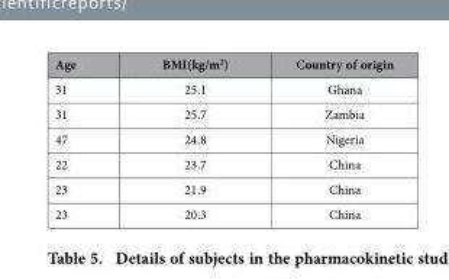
<table><thead><tr><td>Age</td><td>BMI(kg/m<sup>2</sup>)</td><td>Country of origin</td></tr></thead><tbody><tr><td>31</td><td>25.1</td><td>Ghana</td></tr><tr><td>31</td><td>25.7</td><td>Zambia</td></tr><tr><td>47</td><td>24.8</td><td>Nigeria</td></tr><tr><td>22</td><td>23.7</td><td>China</td></tr><tr><td>23</td><td>21.9</td><td>China</td></tr><tr><td>23</td><td>20.3</td><td>China</td></tr></tbody></table>